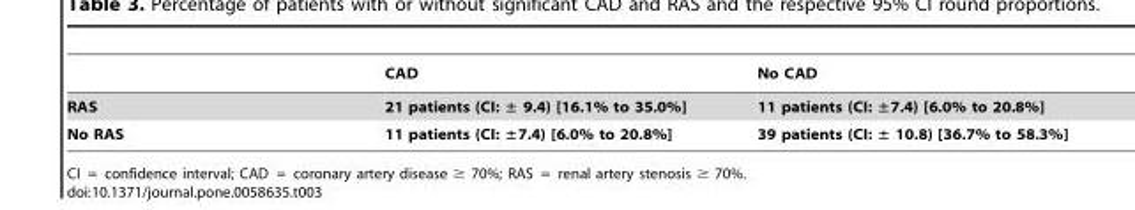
<table><thead><tr><td></td><td>CAD</td><td>No CAD</td></tr></thead><tbody><tr><td>RAS</td><td>21 patients (CI: ± 9.4) [16.1% to 35.0%]</td><td>11 patients (CI: ±7.4) [6.0% to 20.8%]</td></tr><tr><td>No RAS</td><td>11 patients (CI: ±7.4) [6.0% to 20.8%]</td><td>39 patients (CI: ± 10.8) [36.7% to 58.3%]</td></tr></tbody></table>